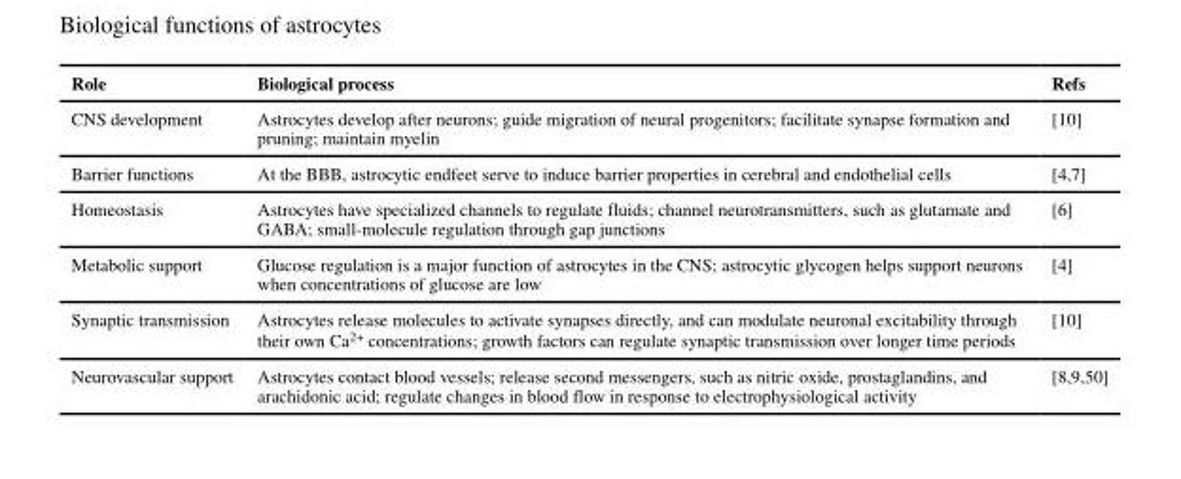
<table><thead><tr><td>Role</td><td>Biological process</td><td>Refs</td></tr></thead><tbody><tr><td>CNS development</td><td>Astrocytes develop after neurons; guide migration of neural progenitors; facilitate synapse formation and pruning; maintain myelin</td><td>[10]</td></tr><tr><td>Barrier functions</td><td>At the BBB, astrocytic endfeet serve to induce barrier properties in cerebral and endothelial cells</td><td>[4,7]</td></tr><tr><td>Homeostasis</td><td>Astrocytes have specialized channels to regulate fluids; channel neurotransmitters, such as glutamate and GABA; small-molecule regulation through gap junctions</td><td>[6]</td></tr><tr><td>Metabolic support</td><td>Glucose regulation is a major function of astrocytes in the CNS; astrocytic glycogen helps support neurons when concentrations of glucose are low</td><td>[4]</td></tr><tr><td>Synaptic transmission</td><td>Astrocytes release molecules to activate synapses directly, and can modulate neuronal excitability through their own Ca<sup>2+</sup> concentrations; growth factors can regulate synaptic transmission over longer time periods</td><td>[10]</td></tr><tr><td>Neurovascular support</td><td>Astrocytes contact blood vessels; release second messengers, such as nitric oxide, prostaglandins, and arachidonic acid; regulate changes in blood flow in response to electrophysiological activity</td><td>[8,9,50]</td></tr></tbody></table>